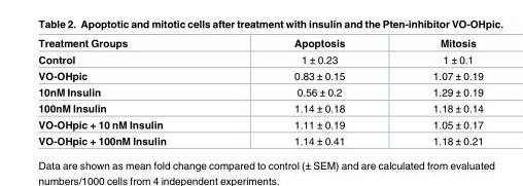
<table><thead><tr><td>Treatment Groups</td><td>Apoptosis</td><td>Mitosis</td></tr></thead><tbody><tr><td>Control</td><td>1 ± 0.23</td><td>1 ± 0.1</td></tr><tr><td>VO-OHpic</td><td>0.83 ± 0.15</td><td>1.07 ± 0.19</td></tr><tr><td>10nM Insulin</td><td>0.56 ± 0.2</td><td>1.29 ± 0.19</td></tr><tr><td>100nM Insulin</td><td>1.14 ± 0.18</td><td>1.18 ± 0.14</td></tr><tr><td>VO-OHpic + 10 nM Insulin</td><td>1.11 ± 0.19</td><td>1.05 ± 0.17</td></tr><tr><td>VO-OHpic + 100nM Insulin</td><td>1.14 ± 0.41</td><td>1.18 ± 0.21</td></tr></tbody></table>